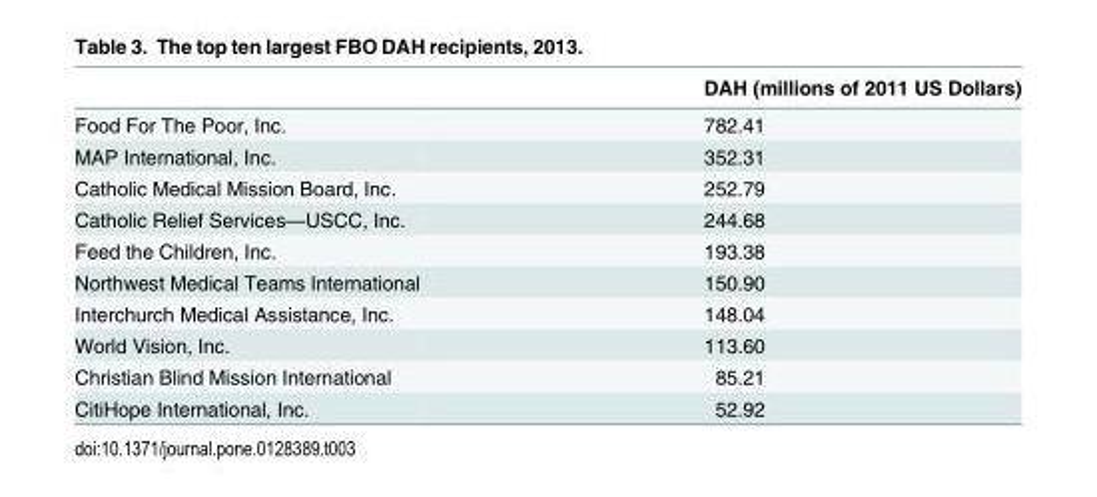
<table><thead><tr><td></td><td>DAH (millions of 2011 US Dollars)</td></tr></thead><tbody><tr><td>Food For The Poor, Inc.</td><td>782.41</td></tr><tr><td>MAP International, Inc.</td><td>352.31</td></tr><tr><td>Catholic Medical Mission Board, Inc.</td><td>252.79</td></tr><tr><td>Catholic Relief Services—USCC, Inc.</td><td>244.68</td></tr><tr><td>Feed the Children, Inc.</td><td>193.38</td></tr><tr><td>Northwest Medical Teams International</td><td>150.90</td></tr><tr><td>Interchurch Medical Assistance, Inc.</td><td>148.04</td></tr><tr><td>World Vision, Inc.</td><td>113.60</td></tr><tr><td>Christian Blind Mission International</td><td>85.21</td></tr><tr><td>CitiHope International, Inc.</td><td>52.92</td></tr></tbody></table>